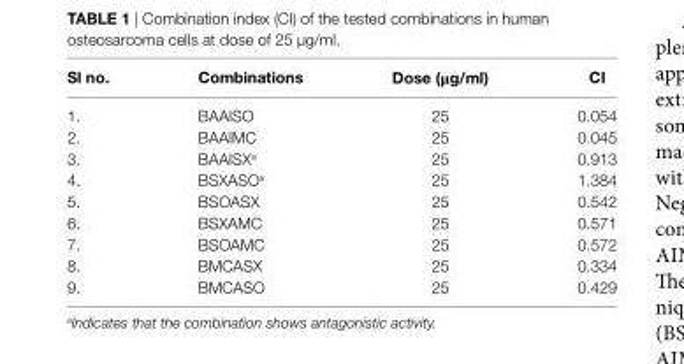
<table><thead><tr><td>sl no.</td><td>combinations</td><td>Dose (μg/ml)</td><td>ci</td></tr></thead><tbody><tr><td>1.</td><td>BAAISO</td><td>25</td><td>0.054</td></tr><tr><td>2.</td><td>BAAIMC</td><td>25</td><td>0.045</td></tr><tr><td>3.</td><td>BAAISX<sup>a</sup></td><td>25</td><td>0.913</td></tr><tr><td>4.</td><td>BSXASO<sup>a</sup></td><td>25</td><td>1.384</td></tr><tr><td>5.</td><td>BSOASX</td><td>25</td><td>0.542</td></tr><tr><td>6.</td><td>BSXAMC</td><td>25</td><td>0.571</td></tr><tr><td>7.</td><td>BSOAMC</td><td>25</td><td>0.572</td></tr><tr><td>8.</td><td>BMCASX</td><td>25</td><td>0.334</td></tr><tr><td>9.</td><td>BMCASO</td><td>25</td><td>0.429</td></tr></tbody></table>